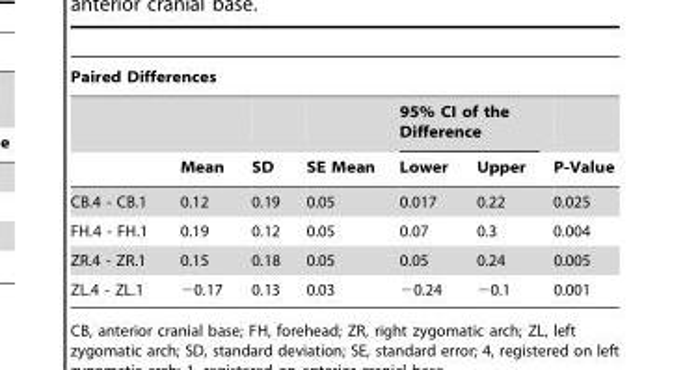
<table><thead><tr><td colspan="7">Paired Differences</td></tr><tr><td rowspan="2"></td><td rowspan="2">Mean</td><td rowspan="2">SD</td><td rowspan="2">SE Mean</td><td colspan="2">95% CI of the Difference</td><td rowspan="2">P-Value</td></tr><tr><td>Lower</td><td>Upper</td></tr></thead><tbody><tr><td>CB.4 - CB.1</td><td>0.12</td><td>0.19</td><td>0.05</td><td>0.017</td><td>0.22</td><td>0.025</td></tr><tr><td>FH.4 - FH.1</td><td>0.19</td><td>0.12</td><td>0.05</td><td>0.07</td><td>0.3</td><td>0.004</td></tr><tr><td>ZR.4 - ZR.1</td><td>0.15</td><td>0.18</td><td>0.05</td><td>0.05</td><td>0.24</td><td>0.005</td></tr><tr><td>ZL.4 - ZL.1</td><td>−0.17</td><td>0.13</td><td>0.03</td><td>−0.24</td><td>−0.1</td><td>0.001</td></tr></tbody></table>